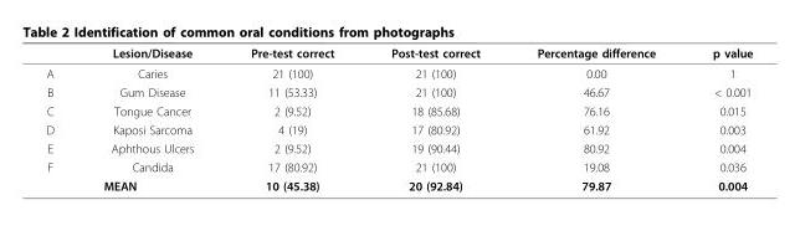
<table><thead><tr><td></td><td>Lesion/Disease</td><td>Pre-test correct</td><td>Post-test correct</td><td>Percentage difference</td><td>p value</td></tr></thead><tbody><tr><td>A</td><td>Caries</td><td>21 (100)</td><td>21 (100)</td><td>0.00</td><td>1</td></tr><tr><td>B</td><td>Gum Disease</td><td>11 (53.33)</td><td>21 (100)</td><td>46.67</td><td>&lt; 0.001</td></tr><tr><td>C</td><td>Tongue Cancer</td><td>2 (9.52)</td><td>18 (85.68)</td><td>76.16</td><td>0.015</td></tr><tr><td>D</td><td>Kaposi Sarcoma</td><td>4 (19)</td><td>17 (80.92)</td><td>61.92</td><td>0.003</td></tr><tr><td>E</td><td>Aphthous Ulcers</td><td>2 (9.52)</td><td>19 (90.44)</td><td>80.92</td><td>0.004</td></tr><tr><td>F</td><td>Candida</td><td>17 (80.92)</td><td>21 (100)</td><td>19.08</td><td>0.036</td></tr><tr><td colspan="2">MEAN</td><td>10 (45.38)</td><td>20 (92.84)</td><td>79.87</td><td>0.004</td></tr></tbody></table>